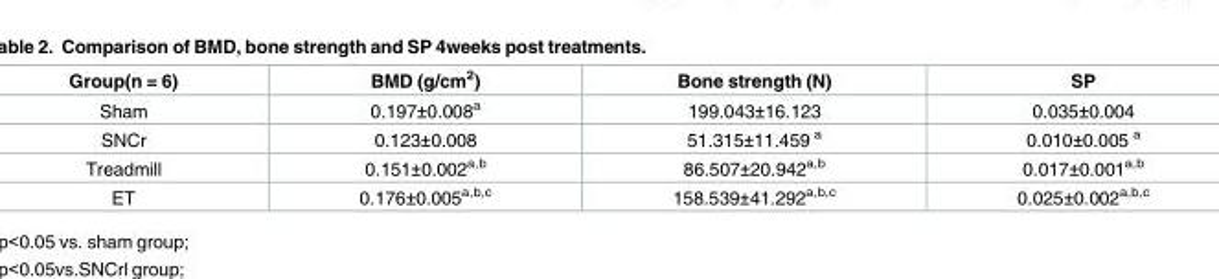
<table><thead><tr><td>Group(n = 6)</td><td>BMD (g/cm<sup>2</sup>)</td><td>Bone strength (N)</td><td>SP</td></tr></thead><tbody><tr><td>Sham</td><td>0.197±0.008<sup>a</sup></td><td>199.043±16.123</td><td>0.035±0.004</td></tr><tr><td>SNCr</td><td>0.123±0.008</td><td>51.315±11.459 <sup>a</sup></td><td>0.010±0.005 <sup>a</sup></td></tr><tr><td>Treadmill</td><td>0.151±0.002<sup>a,b</sup></td><td>86.507±20.942<sup>a,b</sup></td><td>0.017±0.001<sup>a,b</sup></td></tr><tr><td>ET</td><td>0.176±0.005<sup>a,b,c</sup></td><td>158.539±41.292<sup>a,b,c</sup></td><td>0.025±0.002<sup>a,b,c</sup></td></tr></tbody></table>